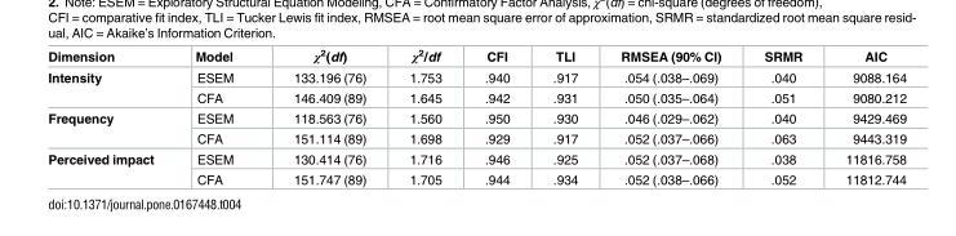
<table><thead><tr><td>Dimension</td><td>Model</td><td>χ<sup>2</sup>(df)</td><td>χ<sup>2</sup>/df</td><td>CFI</td><td>TLI</td><td>RMSEA (90% CI)</td><td>SRMR</td><td>AIC</td></tr></thead><tbody><tr><td rowspan="2">Intensity</td><td>ESEM</td><td>133.196 (76)</td><td>1.753</td><td>.940</td><td>.917</td><td>.054 (.038–.069)</td><td>.040</td><td>9088.164</td></tr><tr><td>CFA</td><td>146.409 (89)</td><td>1.645</td><td>.942</td><td>.931</td><td>.050 (.035–.064)</td><td>.051</td><td>9080.212</td></tr><tr><td rowspan="2">Frequency</td><td>ESEM</td><td>118.563 (76)</td><td>1.560</td><td>.950</td><td>.930</td><td>.046 (.029–.062)</td><td>.040</td><td>9429.469</td></tr><tr><td>CFA</td><td>151.114 (89)</td><td>1.698</td><td>.929</td><td>.917</td><td>.052 (.037–.066)</td><td>.063</td><td>9443.319</td></tr><tr><td rowspan="2">Perceived impact</td><td>ESEM</td><td>130.414 (76)</td><td>1.716</td><td>.946</td><td>.925</td><td>.052 (.037–.068)</td><td>.038</td><td>11816.758</td></tr><tr><td>CFA</td><td>151.747 (89)</td><td>1.705</td><td>.944</td><td>.934</td><td>.052 (.038–.066)</td><td>.052</td><td>11812.744</td></tr></tbody></table>